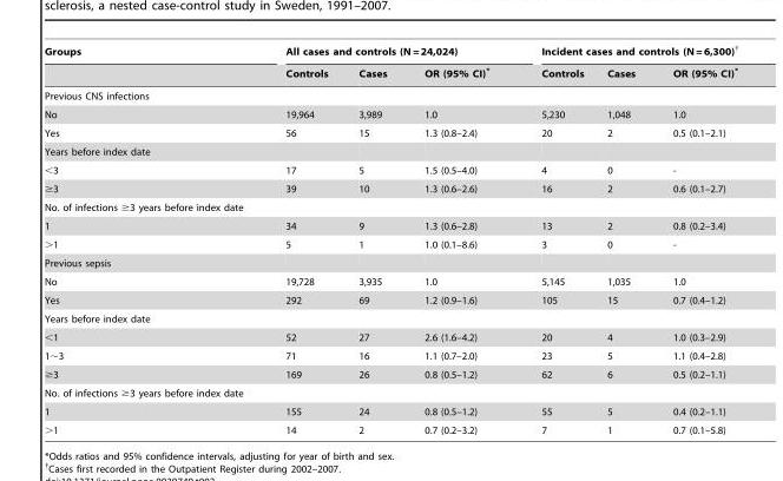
<table><thead><tr><td rowspan="2">Groups</td><td colspan="3">All cases and controls (N = 24,024)</td><td colspan="3">Incident cases and controls (N = 6,300)†</td></tr><tr><td>Controls</td><td>Cases</td><td>OR (95% CI)*</td><td>Controls</td><td>Cases</td><td>OR (95% CI)*</td></tr></thead><tbody><tr><td colspan="7">Previous CNS infections</td></tr><tr><td>No</td><td>19,964</td><td>3,989</td><td>1.0</td><td>5,230</td><td>1,048</td><td>1.0</td></tr><tr><td>Yes</td><td>56</td><td>15</td><td>1.3 (0.8–2.4)</td><td>20</td><td>2</td><td>0.5 (0.1–2.1)</td></tr><tr><td colspan="7">Years before index date</td></tr><tr><td>&lt;3</td><td>17</td><td>5</td><td>1.5 (0.5–4.0)</td><td>4</td><td>0</td><td>-</td></tr><tr><td>≥3</td><td>39</td><td>10</td><td>1.3 (0.6–2.6)</td><td>16</td><td>2</td><td>0.6 (0.1–2.7)</td></tr><tr><td colspan="7">No. of infections ≥3 years before index date</td></tr><tr><td>1</td><td>34</td><td>9</td><td>1.3 (0.6–2.8)</td><td>13</td><td>2</td><td>0.8 (0.2–3.4)</td></tr><tr><td>&gt;1</td><td>5</td><td>1</td><td>1.0 (0.1–8.6)</td><td>3</td><td>0</td><td>-</td></tr><tr><td colspan="7">Previous sepsis</td></tr><tr><td>No</td><td>19,728</td><td>3,935</td><td>1.0</td><td>5,145</td><td>1,035</td><td>1.0</td></tr><tr><td>Yes</td><td>292</td><td>69</td><td>1.2 (0.9–1.6)</td><td>105</td><td>15</td><td>0.7 (0.4–1.2)</td></tr><tr><td colspan="7">Years before index date</td></tr><tr><td>&lt;1</td><td>52</td><td>27</td><td>2.6 (1.6–4.2)</td><td>20</td><td>4</td><td>1.0 (0.3–2.9)</td></tr><tr><td>1∼3</td><td>71</td><td>16</td><td>1.1 (0.7–2.0)</td><td>23</td><td>5</td><td>1.1 (0.4–2.8)</td></tr><tr><td>≥3</td><td>169</td><td>26</td><td>0.8 (0.5–1.2)</td><td>62</td><td>6</td><td>0.5 (0.2–1.1)</td></tr><tr><td colspan="7">No. of infections ≥3 years before index date</td></tr><tr><td>1</td><td>155</td><td>24</td><td>0.8 (0.5–1.2)</td><td>55</td><td>5</td><td>0.4 (0.2–1.1)</td></tr><tr><td>&gt;1</td><td>14</td><td>2</td><td>0.7 (0.2–3.2)</td><td>7</td><td>1</td><td>0.7 (0.1–5.8)</td></tr></tbody></table>